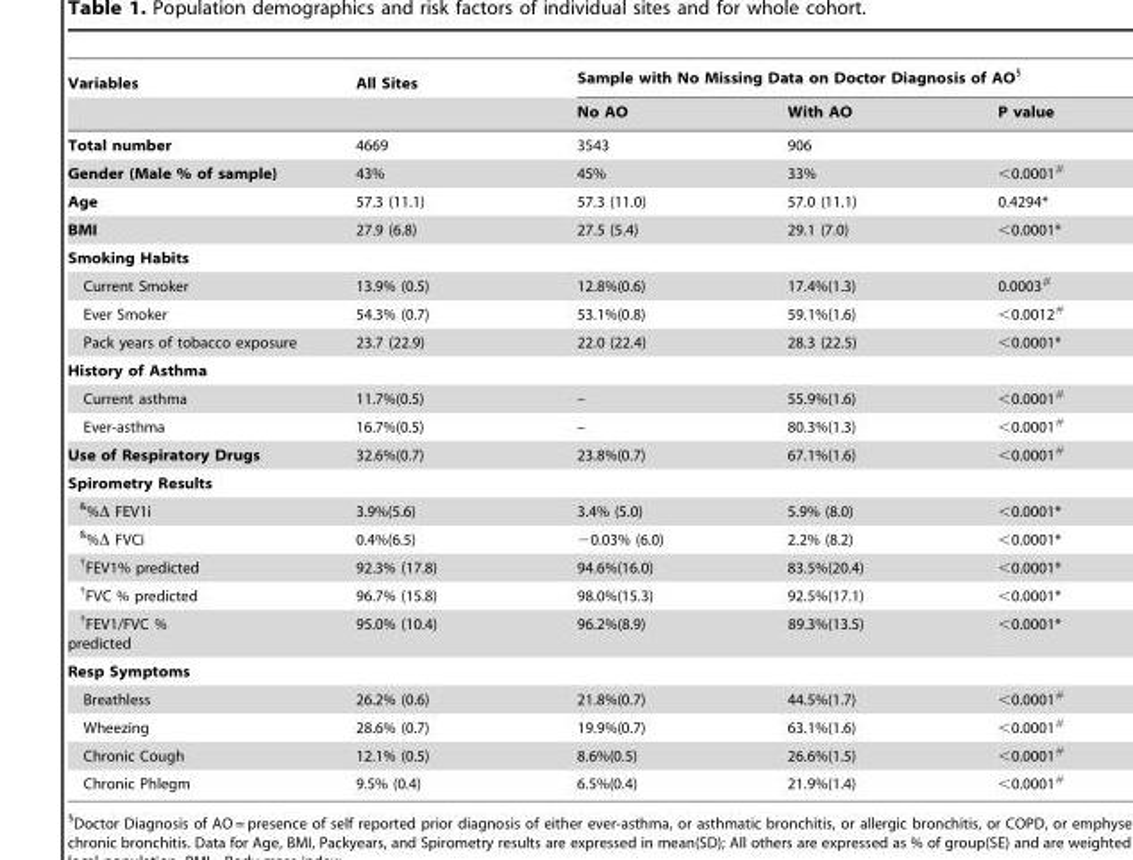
<table><thead><tr><td rowspan="2">Variables</td><td rowspan="2">All Sites</td><td colspan="3">Sample with No Missing Data on Doctor Diagnosis of AO§</td></tr><tr><td>No AO</td><td>With AO</td><td>P value</td></tr></thead><tbody><tr><td>Total number</td><td>4669</td><td>3543</td><td>906</td><td></td></tr><tr><td>Gender (Male % of sample)</td><td>43%</td><td>45%</td><td>33%</td><td>&lt;0.0001#</td></tr><tr><td>Age</td><td>57.3 (11.1)</td><td>57.3 (11.0)</td><td>57.0 (11.1)</td><td>0.4294*</td></tr><tr><td>BMI</td><td>27.9 (6.8)</td><td>27.5 (5.4)</td><td>29.1 (7.0)</td><td>&lt;0.0001*</td></tr><tr><td colspan="5">Smoking Habits</td></tr><tr><td>Current Smoker</td><td>13.9% (0.5)</td><td>12.8%(0.6)</td><td>17.4%(1.3)</td><td>0.0003#</td></tr><tr><td>Ever Smoker</td><td>54.3% (0.7)</td><td>53.1%(0.8)</td><td>59.1%(1.6)</td><td>&lt;0.0012#</td></tr><tr><td>Pack years of tobacco exposure</td><td>23.7 (22.9)</td><td>22.0 (22.4)</td><td>28.3 (22.5)</td><td>&lt;0.0001*</td></tr><tr><td colspan="5">History of Asthma</td></tr><tr><td>Current asthma</td><td>11.7%(0.5)</td><td>–</td><td>55.9%(1.6)</td><td>&lt;0.0001#</td></tr><tr><td>Ever-asthma</td><td>16.7%(0.5)</td><td>–</td><td>80.3%(1.3)</td><td>&lt;0.0001#</td></tr><tr><td>Use of Respiratory Drugs</td><td>32.6%(0.7)</td><td>23.8%(0.7)</td><td>67.1%(1.6)</td><td>&lt;0.0001#</td></tr><tr><td colspan="5">Spirometry Results</td></tr><tr><td><sup>&amp;</sup>%Δ FEV1i</td><td>3.9%(5.6)</td><td>3.4% (5.0)</td><td>5.9% (8.0)</td><td>&lt;0.0001*</td></tr><tr><td><sup>&amp;</sup>%Δ FVCi</td><td>0.4%(6.5)</td><td>−0.03% (6.0)</td><td>2.2% (8.2)</td><td>&lt;0.0001*</td></tr><tr><td>†FEV1% predicted</td><td>92.3% (17.8)</td><td>94.6%(16.0)</td><td>83.5%(20.4)</td><td>&lt;0.0001*</td></tr><tr><td>†FVC % predicted</td><td>96.7% (15.8)</td><td>98.0%(15.3)</td><td>92.5%(17.1)</td><td>&lt;0.0001*</td></tr><tr><td>†FEV1/FVC % predicted</td><td>95.0% (10.4)</td><td>96.2%(8.9)</td><td>89.3%(13.5)</td><td>&lt;0.0001*</td></tr><tr><td colspan="5">Resp Symptoms</td></tr><tr><td>Breathless</td><td>26.2% (0.6)</td><td>21.8%(0.7)</td><td>44.5%(1.7)</td><td>&lt;0.0001#</td></tr><tr><td>Wheezing</td><td>28.6% (0.7)</td><td>19.9%(0.7)</td><td>63.1%(1.6)</td><td>&lt;0.0001#</td></tr><tr><td>Chronic Cough</td><td>12.1% (0.5)</td><td>8.6%(0.5)</td><td>26.6%(1.5)</td><td>&lt;0.0001#</td></tr><tr><td>Chronic Phlegm</td><td>9.5% (0.4)</td><td>6.5%(0.4)</td><td>21.9%(1.4)</td><td>&lt;0.0001#</td></tr></tbody></table>